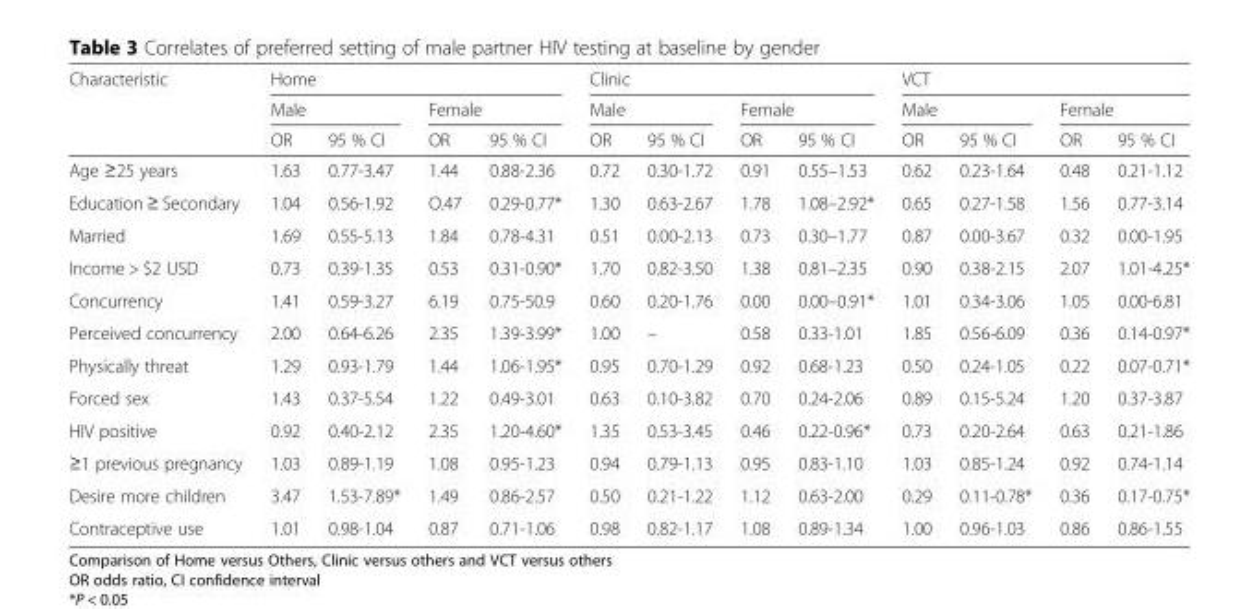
<table><thead><tr><td rowspan="3">Characteristic</td><td colspan="4">Home</td><td colspan="4">Clinic</td><td colspan="4">VCT</td></tr><tr><td colspan="2">Male</td><td colspan="2">Female</td><td colspan="2">Male</td><td colspan="2">Female</td><td colspan="2">Male</td><td colspan="2">Female</td></tr><tr><td>OR</td><td>95 % CI</td><td>OR</td><td>95 % CI</td><td>OR</td><td>95 % CI</td><td>OR</td><td>95 % CI</td><td>OR</td><td>95 % CI</td><td>OR</td><td>95 % CI</td></tr></thead><tbody><tr><td>Age ≥25 years</td><td>1.63</td><td>0.77-3.47</td><td>1.44</td><td>0.88-2.36</td><td>0.72</td><td>0.30-1.72</td><td>0.91</td><td>0.55–1.53</td><td>0.62</td><td>0.23-1.64</td><td>0.48</td><td>0.21-1.12</td></tr><tr><td>Education ≥ Secondary</td><td>1.04</td><td>0.56-1.92</td><td>O.47</td><td>0.29-0.77*</td><td>1.30</td><td>0.63-2.67</td><td>1.78</td><td>1.08–2.92*</td><td>0.65</td><td>0.27-1.58</td><td>1.56</td><td>0.77-3.14</td></tr><tr><td>Married</td><td>1.69</td><td>0.55-5.13</td><td>1.84</td><td>0.78-4.31</td><td>0.51</td><td>0.00-2.13</td><td>0.73</td><td>0.30–1.77</td><td>0.87</td><td>0.00-3.67</td><td>0.32</td><td>0.00-1.95</td></tr><tr><td>Income &gt; $2 USD</td><td>0.73</td><td>0.39-1.35</td><td>0.53</td><td>0.31-0.90*</td><td>1.70</td><td>0.82-3.50</td><td>1.38</td><td>0.81–2.35</td><td>0.90</td><td>0.38-2.15</td><td>2.07</td><td>1.01-4.25*</td></tr><tr><td>Concurrency</td><td>1.41</td><td>0.59-3.27</td><td>6.19</td><td>0.75-50.9</td><td>0.60</td><td>0.20-1.76</td><td>0.00</td><td>0.00–0.91*</td><td>1.01</td><td>0.34-3.06</td><td>1.05</td><td>0.00-6.81</td></tr><tr><td>Perceived concurrency</td><td>2.00</td><td>0.64-6.26</td><td>2.35</td><td>1.39-3.99*</td><td>1.00</td><td>–</td><td>0.58</td><td>0.33-1.01</td><td>1.85</td><td>0.56-6.09</td><td>0.36</td><td>0.14-0.97*</td></tr><tr><td>Physically threat</td><td>1.29</td><td>0.93-1.79</td><td>1.44</td><td>1.06-1.95*</td><td>0.95</td><td>0.70-1.29</td><td>0.92</td><td>0.68-1.23</td><td>0.50</td><td>0.24-1.05</td><td>0.22</td><td>0.07-0.71*</td></tr><tr><td>Forced sex</td><td>1.43</td><td>0.37-5.54</td><td>1.22</td><td>0.49-3.01</td><td>0.63</td><td>0.10-3.82</td><td>0.70</td><td>0.24-2.06</td><td>0.89</td><td>0.15-5.24</td><td>1.20</td><td>0.37-3.87</td></tr><tr><td>HIV positive</td><td>0.92</td><td>0.40-2.12</td><td>2.35</td><td>1.20-4.60*</td><td>1.35</td><td>0.53-3.45</td><td>0.46</td><td>0.22-0.96*</td><td>0.73</td><td>0.20-2.64</td><td>0.63</td><td>0.21-1.86</td></tr><tr><td>≥1 previous pregnancy</td><td>1.03</td><td>0.89-1.19</td><td>1.08</td><td>0.95-1.23</td><td>0.94</td><td>0.79-1.13</td><td>0.95</td><td>0.83-1.10</td><td>1.03</td><td>0.85-1.24</td><td>0.92</td><td>0.74-1.14</td></tr><tr><td>Desire more children</td><td>3.47</td><td>1.53-7.89*</td><td>1.49</td><td>0.86-2.57</td><td>0.50</td><td>0.21-1.22</td><td>1.12</td><td>0.63-2.00</td><td>0.29</td><td>0.11-0.78*</td><td>0.36</td><td>0.17-0.75*</td></tr><tr><td>Contraceptive use</td><td>1.01</td><td>0.98-1.04</td><td>0.87</td><td>0.71-1.06</td><td>0.98</td><td>0.82-1.17</td><td>1.08</td><td>0.89-1.34</td><td>1.00</td><td>0.96-1.03</td><td>0.86</td><td>0.86-1.55</td></tr></tbody></table>